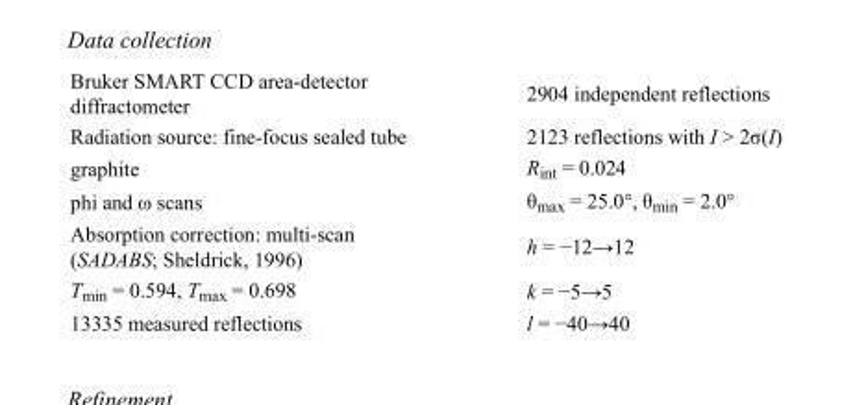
<table><tbody><tr><td>Bruker SMART CCD area-detector diffractometer</td><td>2904 independent reflections</td></tr><tr><td>Radiation source: fine-focus sealed tube</td><td>2123 reflections with I &gt; 2σ(I)</td></tr><tr><td>graphite</td><td>R<sub>int</sub> = 0.024</td></tr><tr><td>phi and ω scans</td><td>θ<sub>max</sub> = 25.0°, θ<sub>min</sub> = 2.0°</td></tr><tr><td>Absorption correction: multi-scan (SADABS; Sheldrick, 1996)</td><td>h = −12→12</td></tr><tr><td>T<sub>min</sub> = 0.594, T<sub>max</sub> = 0.698</td><td>k = −5→5</td></tr><tr><td>13335 measured reflections</td><td>l = −40→40</td></tr></tbody></table>